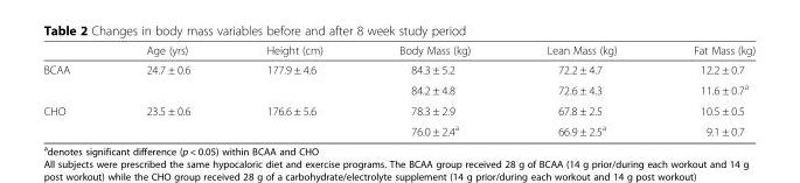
<table><thead><tr><td></td><td>Age (yrs)</td><td>Height (cm)</td><td>Body Mass (kg)</td><td>Lean Mass (kg)</td><td>Fat Mass (kg)</td></tr></thead><tbody><tr><td rowspan="2">BCAA</td><td rowspan="2">24.7 ± 0.6</td><td rowspan="2">177.9 ± 4.6</td><td>84.3 ± 5.2</td><td>72.2 ± 4.7</td><td>12.2 ± 0.7</td></tr><tr><td>84.2 ± 4.8</td><td>72.6 ± 4.3</td><td>11.6 ± 0.7<sup>a</sup></td></tr><tr><td rowspan="2">CHO</td><td rowspan="2">23.5 ± 0.6</td><td rowspan="2">176.6 ± 5.6</td><td>78.3 ± 2.9</td><td>67.8 ± 2.5</td><td>10.5 ± 0.5</td></tr><tr><td>76.0 ± 2.4<sup>a</sup></td><td>66.9 ± 2.5<sup>a</sup></td><td>9.1 ± 0.7</td></tr></tbody></table>